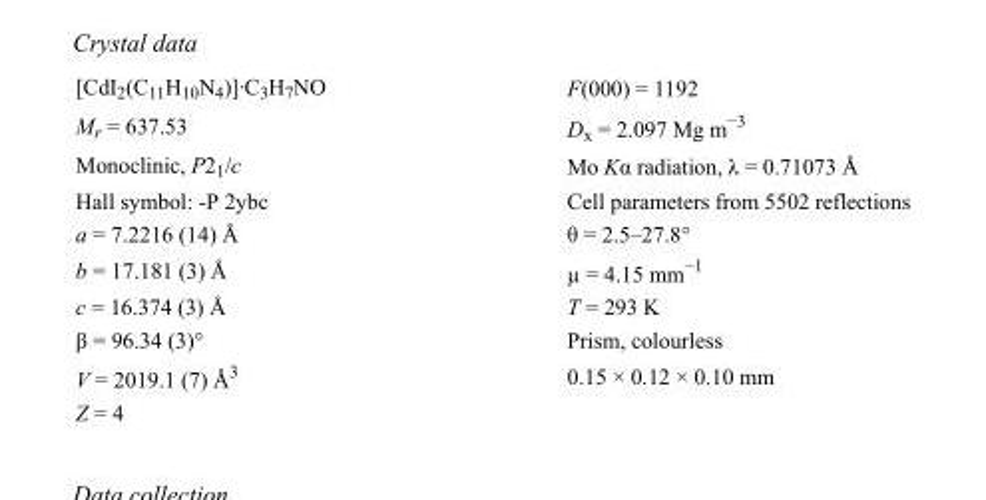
<table><tbody><tr><td>[CdI<sub>2</sub>(C<sub>11</sub>H<sub>10</sub>N<sub>4</sub>)]·C<sub>3</sub>H<sub>7</sub>NO</td><td>F(000) = 1192</td></tr><tr><td>M<sub>r</sub> = 637.53</td><td>D<sub>x</sub> = 2.097 Mg m<sup>−3</sup></td></tr><tr><td>Monoclinic, P2<sub>1</sub>/c</td><td>Mo Kα radiation, λ = 0.71073 Å</td></tr><tr><td>Hall symbol: -P 2ybc</td><td>Cell parameters from 5502 reflections</td></tr><tr><td>a = 7.2216 (14) Å</td><td>θ = 2.5–27.8°</td></tr><tr><td>b = 17.181 (3) Å</td><td>µ = 4.15 mm<sup>−1</sup></td></tr><tr><td>c = 16.374 (3) Å</td><td>T = 293 K</td></tr><tr><td>β = 96.34 (3)°</td><td>Prism, colourless</td></tr><tr><td>V = 2019.1 (7) Å<sup>3</sup></td><td>0.15 × 0.12 × 0.10 mm</td></tr><tr><td>Z = 4</td><td></td></tr></tbody></table>